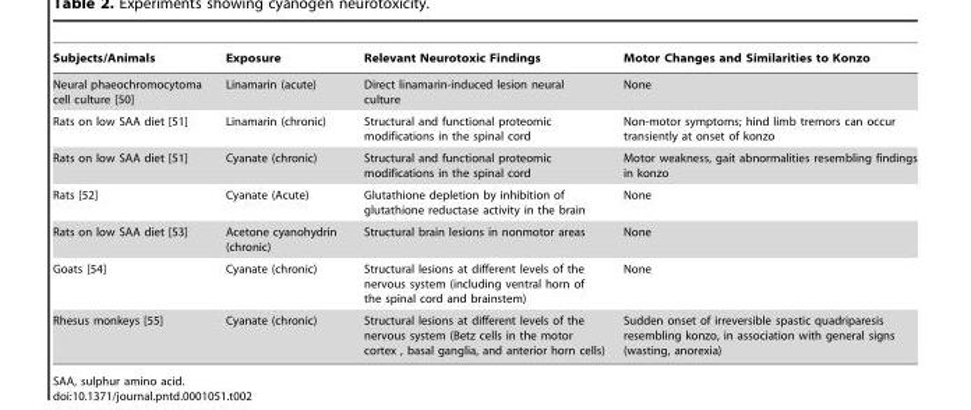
<table><thead><tr><td>Subjects/Animals</td><td>Exposure</td><td>Relevant Neurotoxic Findings</td><td>Motor Changes and Similarities to Konzo</td></tr></thead><tbody><tr><td>Neural phaeochromocytoma cell culture [50]</td><td>Linamarin (acute)</td><td>Direct linamarin-induced lesion neural culture</td><td>None</td></tr><tr><td>Rats on low SAA diet [51]</td><td>Linamarin (chronic)</td><td>Structural and functional proteomic modifications in the spinal cord</td><td>Non-motor symptoms; hind limb tremors can occur transiently at onset of konzo</td></tr><tr><td>Rats on low SAA diet [51]</td><td>Cyanate (chronic)</td><td>Structural and functional proteomic modifications in the spinal cord</td><td>Motor weakness, gait abnormalities resembling findings in konzo</td></tr><tr><td>Rats [52]</td><td>Cyanate (Acute)</td><td>Glutathione depletion by inhibition of glutathione reductase activity in the brain</td><td>None</td></tr><tr><td>Rats on low SAA diet [53]</td><td>Acetone cyanohydrin (chronic)</td><td>Structural brain lesions in nonmotor areas</td><td>None</td></tr><tr><td>Goats [54]</td><td>Cyanate (chronic)</td><td>Structural lesions at different levels of the nervous system (including ventral horn of the spinal cord and brainstem)</td><td>None</td></tr><tr><td>Rhesus monkeys [55]</td><td>Cyanate (chronic)</td><td>Structural lesions at different levels of the nervous system (Betz cells in the motor cortex , basal ganglia, and anterior horn cells)</td><td>Sudden onset of irreversible spastic quadriparesis resembling konzo, in association with general signs (wasting, anorexia)</td></tr></tbody></table>